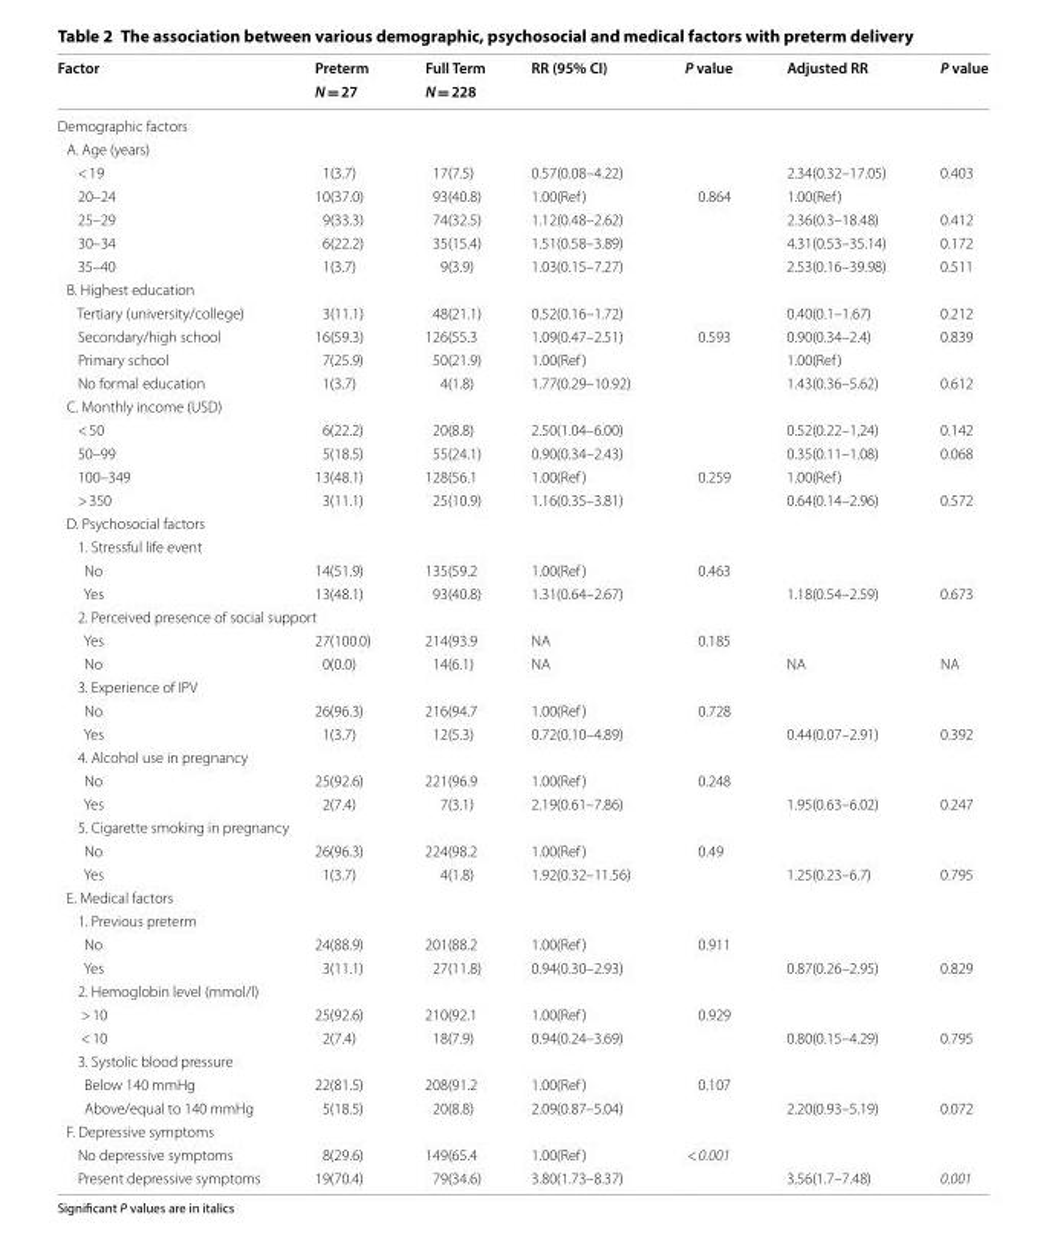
<table><thead><tr><td rowspan="2">Factor</td><td rowspan="2">Preterm N = 27</td><td rowspan="2">Full Term N = 228</td><td rowspan="2">RR (95% CI)</td><td rowspan="2">P value</td><td rowspan="2">Adjusted RR</td><td rowspan="2">P value</td></tr><tr></tr></thead><tbody><tr><td colspan="7">Demographic factors</td></tr><tr><td colspan="7">A. Age (years)</td></tr><tr><td>&lt; 19</td><td>1(3.7)</td><td>17(7.5)</td><td>0.57(0.08–4.22)</td><td></td><td>2.34(0.32–17.05)</td><td>0.403</td></tr><tr><td>20–24</td><td>10(37.0)</td><td>93(40.8)</td><td>1.00(Ref)</td><td>0.864</td><td>1.00(Ref)</td><td></td></tr><tr><td>25–29</td><td>9(33.3)</td><td>74(32.5)</td><td>1.12(0.48–2.62)</td><td></td><td>2.36(0.3–18.48)</td><td>0.412</td></tr><tr><td>30–34</td><td>6(22.2)</td><td>35(15.4)</td><td>1.51(0.58–3.89)</td><td></td><td>4.31(0.53–35.14)</td><td>0.172</td></tr><tr><td>35–40</td><td>1(3.7)</td><td>9(3.9)</td><td>1.03(0.15–7.27)</td><td></td><td>2.53(0.16–39.98)</td><td>0.511</td></tr><tr><td colspan="7">B. Highest education</td></tr><tr><td>Tertiary (university/college)</td><td>3(11.1)</td><td>48(21.1)</td><td>0.52(0.16–1.72)</td><td></td><td>0.40(0.1–1.67)</td><td>0.212</td></tr><tr><td>Secondary/high school</td><td>16(59.3)</td><td>126(55.3</td><td>1.09(0.47–2.51)</td><td>0.593</td><td>0.90(0.34–2.4)</td><td>0.839</td></tr><tr><td>Primary school</td><td>7(25.9)</td><td>50(21.9)</td><td>1.00(Ref)</td><td></td><td>1.00(Ref)</td><td></td></tr><tr><td>No formal education</td><td>1(3.7)</td><td>4(1.8)</td><td>1.77(0.29–10.92)</td><td></td><td>1.43(0.36–5.62)</td><td>0.612</td></tr><tr><td colspan="7">C. Monthly income (USD)</td></tr><tr><td>&lt; 50</td><td>6(22.2)</td><td>20(8.8)</td><td>2.50(1.04–6.00)</td><td></td><td>0.52(0.22–1,24)</td><td>0.142</td></tr><tr><td>50–99</td><td>5(18.5)</td><td>55(24.1)</td><td>0.90(0.34–2.43)</td><td></td><td>0.35(0.11–1.08)</td><td>0.068</td></tr><tr><td>100–349</td><td>13(48.1)</td><td>128(56.1</td><td>1.00(Ref)</td><td>0.259</td><td>1.00(Ref)</td><td></td></tr><tr><td>&gt; 350</td><td>3(11.1)</td><td>25(10.9)</td><td>1.16(0.35–3.81)</td><td></td><td>0.64(0.14–2.96)</td><td>0.572</td></tr><tr><td colspan="7">D. Psychosocial factors</td></tr><tr><td colspan="7">1. Stressful life event</td></tr><tr><td>No</td><td>14(51.9)</td><td>135(59.2</td><td>1.00(Ref)</td><td>0.463</td><td></td><td></td></tr><tr><td>Yes</td><td>13(48.1)</td><td>93(40.8)</td><td>1.31(0.64–2.67)</td><td></td><td>1.18(0.54–2.59)</td><td>0.673</td></tr><tr><td colspan="7">2. Perceived presence of social support</td></tr><tr><td>Yes</td><td>27(100.0)</td><td>214(93.9</td><td>NA</td><td>0.185</td><td></td><td></td></tr><tr><td>No</td><td>0(0.0)</td><td>14(6.1)</td><td>NA</td><td></td><td>NA</td><td>NA</td></tr><tr><td colspan="7">3. Experience of IPV</td></tr><tr><td>No</td><td>26(96.3)</td><td>216(94.7</td><td>1.00(Ref)</td><td>0.728</td><td></td><td></td></tr><tr><td>Yes</td><td>1(3.7)</td><td>12(5.3)</td><td>0.72(0.10–4.89)</td><td></td><td>0.44(0.07–2.91)</td><td>0.392</td></tr><tr><td colspan="7">4. Alcohol use in pregnancy</td></tr><tr><td>No</td><td>25(92.6)</td><td>221(96.9</td><td>1.00(Ref)</td><td>0.248</td><td></td><td></td></tr><tr><td>Yes</td><td>2(7.4)</td><td>7(3.1)</td><td>2.19(0.61–7.86)</td><td></td><td>1.95(0.63–6.02)</td><td>0.247</td></tr><tr><td colspan="7">5. Cigarette smoking in pregnancy</td></tr><tr><td>No</td><td>26(96.3)</td><td>224(98.2</td><td>1.00(Ref)</td><td>0.49</td><td></td><td></td></tr><tr><td>Yes</td><td>1(3.7)</td><td>4(1.8)</td><td>1.92(0.32–11.56)</td><td></td><td>1.25(0.23–6.7)</td><td>0.795</td></tr><tr><td colspan="7">E. Medical factors</td></tr><tr><td colspan="7">1. Previous preterm</td></tr><tr><td>No</td><td>24(88.9)</td><td>201(88.2</td><td>1.00(Ref)</td><td>0.911</td><td></td><td></td></tr><tr><td>Yes</td><td>3(11.1)</td><td>27(11.8)</td><td>0.94(0.30–2.93)</td><td></td><td>0.87(0.26–2.95)</td><td>0.829</td></tr><tr><td colspan="7">2. Hemoglobin level (mmol/l)</td></tr><tr><td>&gt; 10</td><td>25(92.6)</td><td>210(92.1</td><td>1.00(Ref)</td><td>0.929</td><td></td><td></td></tr><tr><td>&lt; 10</td><td>2(7.4)</td><td>18(7.9)</td><td>0.94(0.24–3.69)</td><td></td><td>0.80(0.15–4.29)</td><td>0.795</td></tr><tr><td colspan="7">3. Systolic blood pressure</td></tr><tr><td>Below 140 mmHg</td><td>22(81.5)</td><td>208(91.2</td><td>1.00(Ref)</td><td>0.107</td><td></td><td></td></tr><tr><td>Above/equal to 140 mmHg</td><td>5(18.5)</td><td>20(8.8)</td><td>2.09(0.87–5.04)</td><td></td><td>2.20(0.93–5.19)</td><td>0.072</td></tr><tr><td colspan="7">F. Depressive symptoms</td></tr><tr><td>No depressive symptoms</td><td>8(29.6)</td><td>149(65.4</td><td>1.00(Ref)</td><td>&lt; 0.001</td><td></td><td></td></tr><tr><td>Present depressive symptoms</td><td>19(70.4)</td><td>79(34.6)</td><td>3.80(1.73–8.37)</td><td></td><td>3.56(1.7–7.48)</td><td>0.001</td></tr></tbody></table>